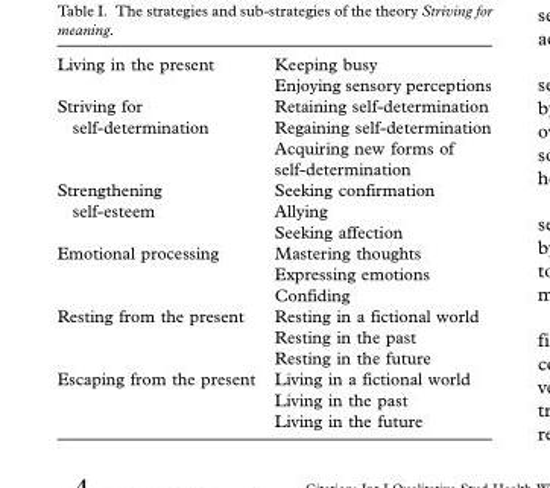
<table><tbody><tr><td>Living in the present</td><td>Keeping busy Enjoying sensory perceptions</td></tr><tr><td>Striving for self-determination</td><td>Retaining self-determination Regaining self-determination Acquiring new forms of self-determination</td></tr><tr><td>Strengthening self-esteem</td><td>Seeking confirmation Allying Seeking affection</td></tr><tr><td>Emotional processing</td><td>Mastering thoughts Expressing emotions Confiding</td></tr><tr><td>Resting from the present</td><td>Resting in a fictional world Resting in the past Resting in the future</td></tr><tr><td>Escaping from the present</td><td>Living in a fictional world Living in the past Living in the future</td></tr></tbody></table>